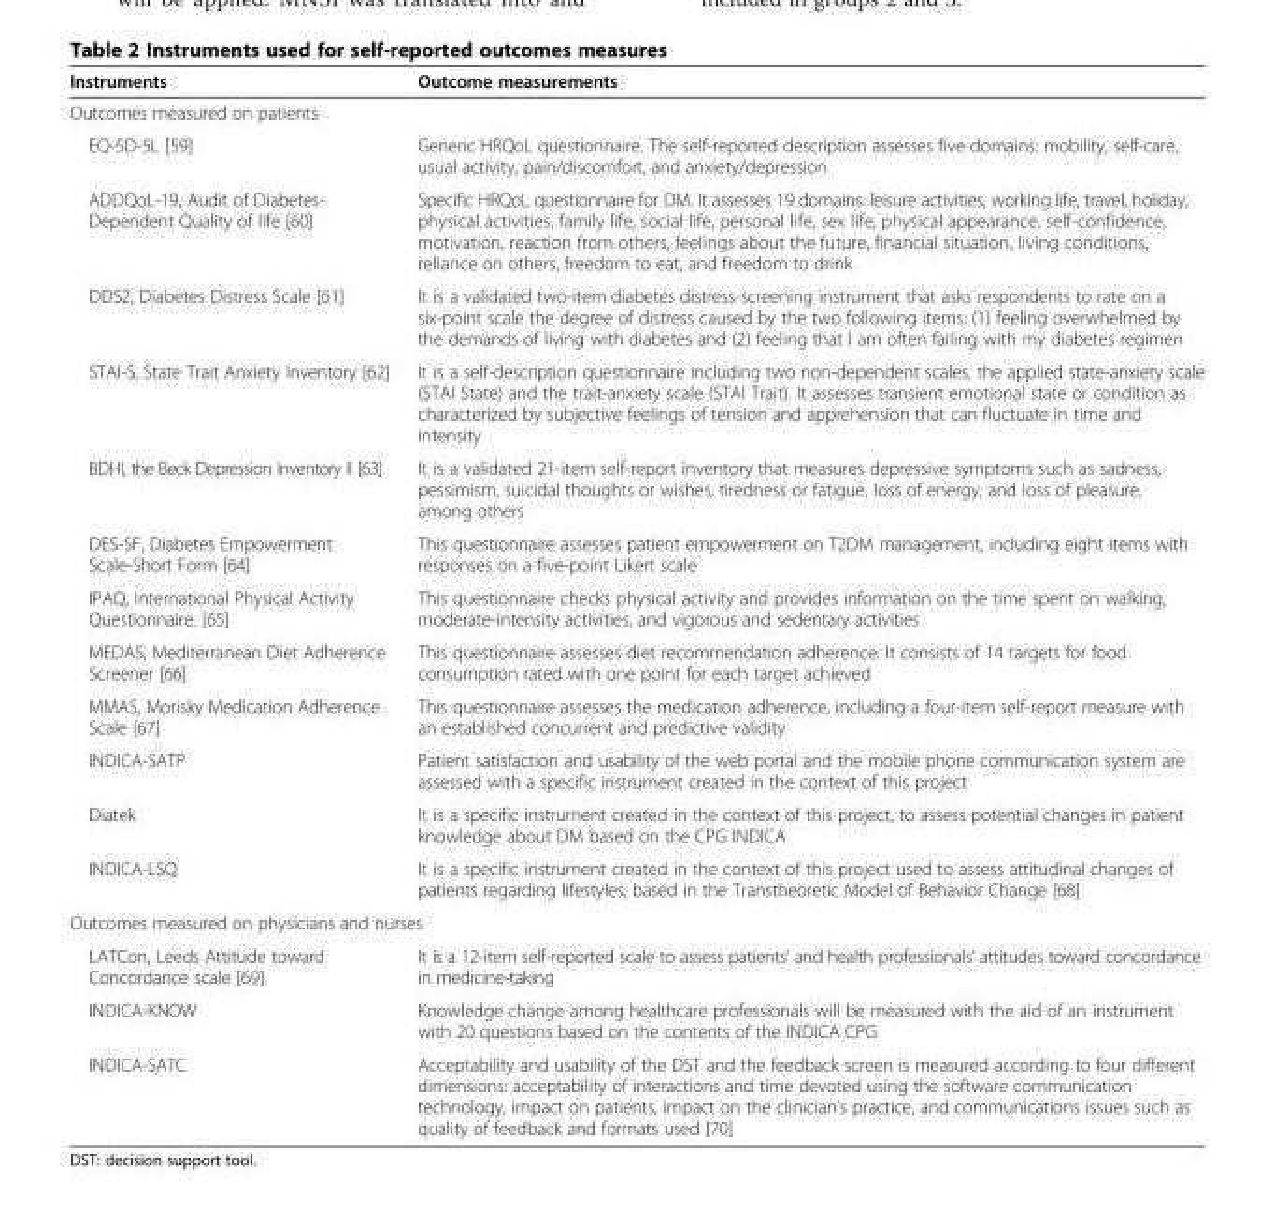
<table><thead><tr><td>Instruments</td><td>Outcome measurements</td></tr></thead><tbody><tr><td colspan="2">Outcomes measured on patients</td></tr><tr><td>EQ-5D-5L [59]</td><td>Generic HRQoL questionnaire. The self-reported description assesses five domains: mobility, self-care, usual activity, pain/discomfort, and anxiety/depression</td></tr><tr><td>ADDQoL-19, Audit of Diabetes- Dependent Quality of life [60]</td><td>Specific HRQoL questionnaire for DM. It assesses 19 domains: leisure activities, working life, travel, holiday, physical activities, family life, social life, personal life, sex life, physical appearance, self-confidence, motivation, reaction from others, feelings about the future, financial situation, living conditions, reliance on others, freedom to eat, and freedom to drink</td></tr><tr><td>DDS2, Diabetes Distress Scale [61]</td><td>It is a validated two-item diabetes distress-screening instrument that asks respondents to rate on a six-point scale the degree of distress caused by the two following items: (1) feeling overwhelmed by the demands of living with diabetes and (2) feeling that I am often failing with my diabetes regimen</td></tr><tr><td>STAI-S, State Trait Anxiety Inventory [62]</td><td>It is a self-description questionnaire including two non-dependent scales, the applied state-anxiety scale (STAI State) and the trait-anxiety scale (STAI Trait). It assesses transient emotional state or condition as characterized by subjective feelings of tension and apprehension that can fluctuate in time and intensity</td></tr><tr><td>BDI-II, the Beck Depression Inventory II [63]</td><td>It is a validated 21-item self-report inventory that measures depressive symptoms such as sadness, pessimism, suicidal thoughts or wishes, tiredness or fatigue, loss of energy, and loss of pleasure, among others</td></tr><tr><td>DES-SF, Diabetes Empowerment Scale-Short Form [64]</td><td>This questionnaire assesses patient empowerment on T2DM management, including eight items with responses on a five-point Likert scale</td></tr><tr><td>IPAQ, International Physical Activity Questionnaire. [65]</td><td>This questionnaire checks physical activity and provides information on the time spent on walking, moderate-intensity activities, and vigorous and sedentary activities</td></tr><tr><td>MEDAS, Mediterranean Diet Adherence Screener [66]</td><td>This questionnaire assesses diet recommendation adherence. It consists of 14 targets for food consumption rated with one point for each target achieved</td></tr><tr><td>MMAS, Morisky Medication Adherence Scale [67]</td><td>This questionnaire assesses the medication adherence, including a four-item self-report measure with an established concurrent and predictive validity</td></tr><tr><td>INDICA-SATP</td><td>Patient satisfaction and usability of the web portal and the mobile phone communication system are assessed with a specific instrument created in the context of this project</td></tr><tr><td>Diatek</td><td>It is a specific instrument created in the context of this project, to assess potential changes in patient knowledge about DM based on the CPG INDICA</td></tr><tr><td>INDICA-LSQ</td><td>It is a specific instrument created in the context of this project used to assess attitudinal changes of patients regarding lifestyles, based in the Transtheoretic Model of Behavior Change [68]</td></tr><tr><td colspan="2">Outcomes measured on physicians and nurses</td></tr><tr><td>LATCon, Leeds Attitude toward Concordance scale [69]</td><td>It is a 12-item self-reported scale to assess patients’ and health professionals’ attitudes toward concordance in medicine-taking</td></tr><tr><td>INDICA-KNOW</td><td>Knowledge change among healthcare professionals will be measured with the aid of an instrument with 20 questions based on the contents of the INDICA CPG</td></tr><tr><td>INDICA-SATC</td><td>Acceptability and usability of the DST and the feedback screen is measured according to four different dimensions: acceptability of interactions and time devoted using the software communication technology, impact on patients, impact on the clinician’s practice, and communications issues such as quality of feedback and formats used [70]</td></tr></tbody></table>